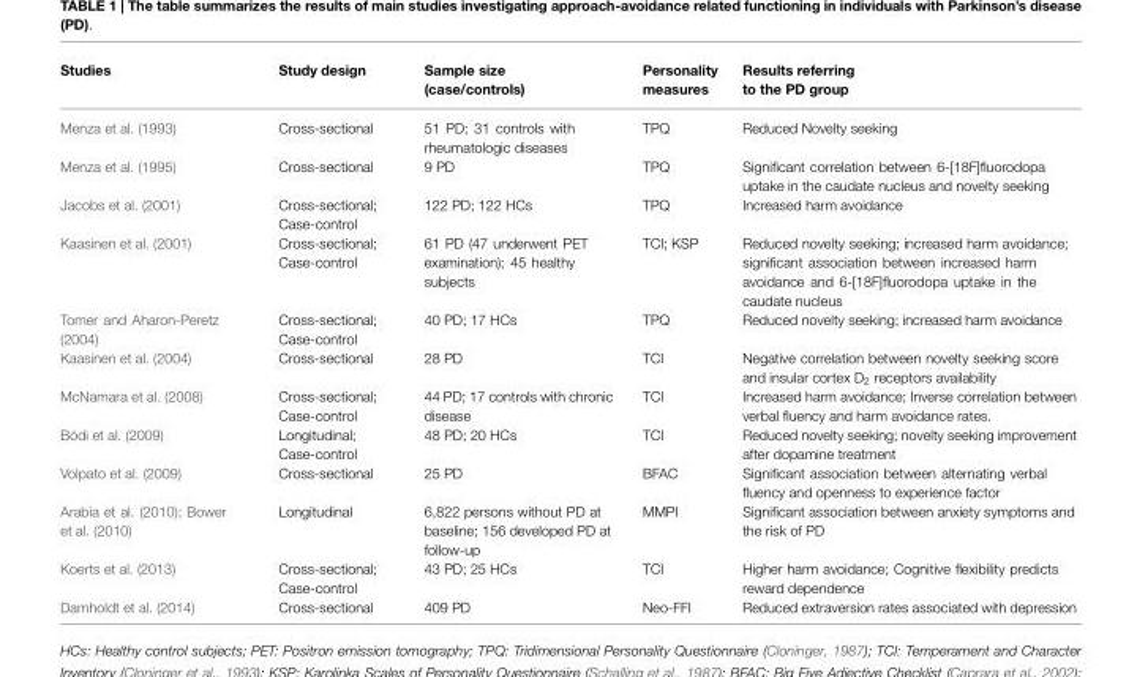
<table><thead><tr><td>Studies</td><td>Study design</td><td>Sample size (case/controls)</td><td>Personality measures</td><td>Results referring to the PD group</td></tr></thead><tbody><tr><td>Menza et al. (1993)</td><td>Cross-sectional</td><td>51 PD; 31 controls with rheumatologic diseases</td><td>TPQ</td><td>Reduced Novelty seeking</td></tr><tr><td>Menza et al. (1995)</td><td>Cross-sectional</td><td>9 PD</td><td>TPQ</td><td>Significant correlation between 6-[18F]fluorodopa uptake in the caudate nucleus and novelty seeking</td></tr><tr><td>Jacobs et al. (2001)</td><td>Cross-sectional; Case-control</td><td>122 PD; 122 HCs</td><td>TPQ</td><td>Increased harm avoidance</td></tr><tr><td>Kaasinen et al. (2001)</td><td>Cross-sectional; Case-control</td><td>61 PD (47 underwent PET examination); 45 healthy subjects</td><td>TCI; KSP</td><td>Reduced novelty seeking; increased harm avoidance; significant association between increased harm avoidance and 6-[18F]fluorodopa uptake in the caudate nucleus</td></tr><tr><td>Tomer and Aharon-Peretz (2004)</td><td>Cross-sectional; Case-control</td><td>40 PD; 17 HCs</td><td>TPQ</td><td>Reduced novelty seeking; increased harm avoidance</td></tr><tr><td>Kaasinen et al. (2004)</td><td>Cross-sectional</td><td>28 PD</td><td>TCI</td><td>Negative correlation between novelty seeking score and insular cortex D<sub>2</sub> receptors availability</td></tr><tr><td>McNamara et al. (2008)</td><td>Cross-sectional; Case-control</td><td>44 PD; 17 controls with chronic disease</td><td>TCI</td><td>Increased harm avoidance; Inverse correlation between verbal fluency and harm avoidance rates.</td></tr><tr><td>Bódi et al. (2009)</td><td>Longitudinal; Case-control</td><td>48 PD; 20 HCs</td><td>TCI</td><td>Reduced novelty seeking; novelty seeking improvement after dopamine treatment</td></tr><tr><td>Volpato et al. (2009)</td><td>Cross-sectional</td><td>25 PD</td><td>BFAC</td><td>Significant association between alternating verbal fluency and openness to experience factor</td></tr><tr><td>Arabia et al. (2010); Bower et al. (2010)</td><td>Longitudinal</td><td>6,822 persons without PD at baseline; 156 developed PD at follow-up</td><td>MMPI</td><td>Significant association between anxiety symptoms and the risk of PD</td></tr><tr><td>Koerts et al. (2013)</td><td>Cross-sectional; Case-control</td><td>43 PD; 25 HCs</td><td>TCI</td><td>Higher harm avoidance; Cognitive flexibility predicts reward dependence</td></tr><tr><td>Damholdt et al. (2014)</td><td>Cross-sectional</td><td>409 PD</td><td>Neo-FFI</td><td>Reduced extraversion rates associated with depression</td></tr></tbody></table>